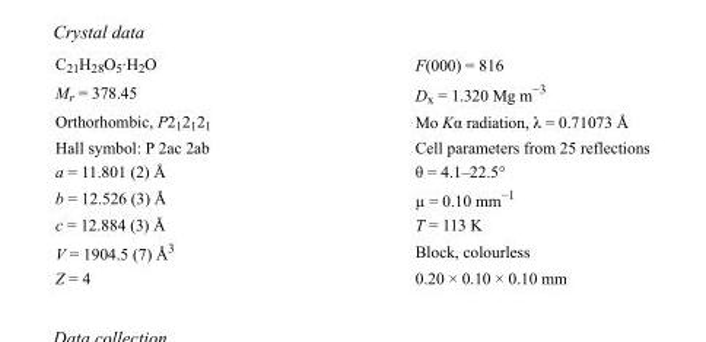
<table><tbody><tr><td>C<sub>21</sub>H<sub>28</sub>O<sub>5</sub>·H<sub>2</sub>O</td><td>F(000) = 816</td></tr><tr><td>M<sub>r</sub> = 378.45</td><td>D<sub>x</sub> = 1.320 Mg m<sup>−3</sup></td></tr><tr><td>Orthorhombic, P2<sub>1</sub>2<sub>1</sub>2<sub>1</sub></td><td>Mo Kα radiation, λ = 0.71073 Å</td></tr><tr><td>Hall symbol: P 2ac 2ab</td><td>Cell parameters from 25 reflections</td></tr><tr><td>a = 11.801 (2) Å</td><td>θ = 4.1–22.5°</td></tr><tr><td>b = 12.526 (3) Å</td><td>µ = 0.10 mm<sup>−1</sup></td></tr><tr><td>c = 12.884 (3) Å</td><td>T = 113 K</td></tr><tr><td>V = 1904.5 (7) Å<sup>3</sup></td><td>Block, colourless</td></tr><tr><td>Z = 4</td><td>0.20 × 0.10 × 0.10 mm</td></tr></tbody></table>